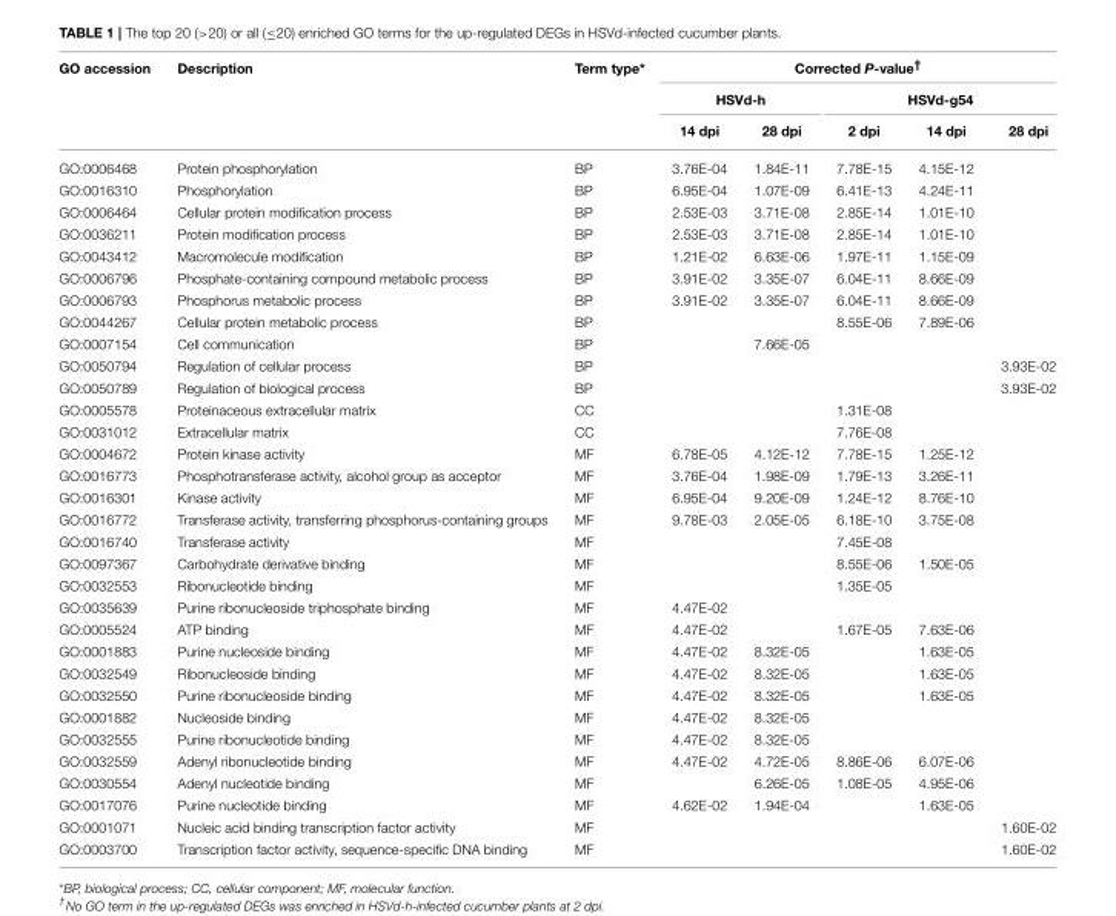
<table><thead><tr><td rowspan="3">GO accession</td><td rowspan="3">Description</td><td rowspan="3">Term type*</td><td colspan="5">Corrected P-value<sup>†</sup></td></tr><tr><td colspan="2">HSVd-h</td><td colspan="3">HSVd-g54</td></tr><tr><td>14 dpi</td><td>28 dpi</td><td>2 dpi</td><td>14 dpi</td><td>28 dpi</td></tr></thead><tbody><tr><td>GO:0006468</td><td>Protein phosphorylation</td><td>BP</td><td>3.76E-04</td><td>1.84E-11</td><td>7.78E-15</td><td>4.15E-12</td><td></td></tr><tr><td>GO:0016310</td><td>Phosphorylation</td><td>BP</td><td>6.95E-04</td><td>1.07E-09</td><td>6.41E-13</td><td>4.24E-11</td><td></td></tr><tr><td>GO:0006464</td><td>Cellular protein modification process</td><td>BP</td><td>2.53E-03</td><td>3.71E-08</td><td>2.85E-14</td><td>1.01E-10</td><td></td></tr><tr><td>GO:0036211</td><td>Protein modification process</td><td>BP</td><td>2.53E-03</td><td>3.71E-08</td><td>2.85E-14</td><td>1.01E-10</td><td></td></tr><tr><td>GO:0043412</td><td>Macromolecule modification</td><td>BP</td><td>1.21E-02</td><td>6.63E-06</td><td>1.97E-11</td><td>1.15E-09</td><td></td></tr><tr><td>GO:0006796</td><td>Phosphate-containing compound metabolic process</td><td>BP</td><td>3.91E-02</td><td>3.35E-07</td><td>6.04E-11</td><td>8.66E-09</td><td></td></tr><tr><td>GO:0006793</td><td>Phosphorus metabolic process</td><td>BP</td><td>3.91E-02</td><td>3.35E-07</td><td>6.04E-11</td><td>8.66E-09</td><td></td></tr><tr><td>GO:0044267</td><td>Cellular protein metabolic process</td><td>BP</td><td></td><td></td><td>8.55E-06</td><td>7.89E-06</td><td></td></tr><tr><td>GO:0007154</td><td>Cell communication</td><td>BP</td><td></td><td>7.66E-05</td><td></td><td></td><td></td></tr><tr><td>GO:0050794</td><td>Regulation of cellular process</td><td>BP</td><td></td><td></td><td></td><td></td><td>3.93E-02</td></tr><tr><td>GO:0050789</td><td>Regulation of biological process</td><td>BP</td><td></td><td></td><td></td><td></td><td>3.93E-02</td></tr><tr><td>GO:0005578</td><td>Proteinaceous extracellular matrix</td><td>CC</td><td></td><td></td><td>1.31E-08</td><td></td><td></td></tr><tr><td>GO:0031012</td><td>Extracellular matrix</td><td>CC</td><td></td><td></td><td>7.76E-08</td><td></td><td></td></tr><tr><td>GO:0004672</td><td>Protein kinase activity</td><td>MF</td><td>6.78E-05</td><td>4.12E-12</td><td>7.78E-15</td><td>1.25E-12</td><td></td></tr><tr><td>GO:0016773</td><td>Phosphotransferase activity, alcohol group as acceptor</td><td>MF</td><td>3.76E-04</td><td>1.98E-09</td><td>1.79E-13</td><td>3.26E-11</td><td></td></tr><tr><td>GO:0016301</td><td>Kinase activity</td><td>MF</td><td>6.95E-04</td><td>9.20E-09</td><td>1.24E-12</td><td>8.76E-10</td><td></td></tr><tr><td>GO:0016772</td><td>Transferase activity, transferring phosphorus-containing groups</td><td>MF</td><td>9.78E-03</td><td>2.05E-05</td><td>6.18E-10</td><td>3.75E-08</td><td></td></tr><tr><td>GO:0016740</td><td>Transferase activity</td><td>MF</td><td></td><td></td><td>7.45E-08</td><td></td><td></td></tr><tr><td>GO:0097367</td><td>Carbohydrate derivative binding</td><td>MF</td><td></td><td></td><td>8.55E-06</td><td>1.50E-05</td><td></td></tr><tr><td>GO:0032553</td><td>Ribonucleotide binding</td><td>MF</td><td></td><td></td><td>1.35E-05</td><td></td><td></td></tr><tr><td>GO:0035639</td><td>Purine ribonucleoside triphosphate binding</td><td>MF</td><td>4.47E-02</td><td></td><td></td><td></td><td></td></tr><tr><td>GO:0005524</td><td>ATP binding</td><td>MF</td><td>4.47E-02</td><td></td><td>1.67E-05</td><td>7.63E-06</td><td></td></tr><tr><td>GO:0001883</td><td>Purine nucleoside binding</td><td>MF</td><td>4.47E-02</td><td>8.32E-05</td><td></td><td>1.63E-05</td><td></td></tr><tr><td>GO:0032549</td><td>Ribonucleoside binding</td><td>MF</td><td>4.47E-02</td><td>8.32E-05</td><td></td><td>1.63E-05</td><td></td></tr><tr><td>GO:0032550</td><td>Purine ribonucleoside binding</td><td>MF</td><td>4.47E-02</td><td>8.32E-05</td><td></td><td>1.63E-05</td><td></td></tr><tr><td>GO:0001882</td><td>Nucleoside binding</td><td>MF</td><td>4.47E-02</td><td>8.32E-05</td><td></td><td></td><td></td></tr><tr><td>GO:0032555</td><td>Purine ribonucleotide binding</td><td>MF</td><td>4.47E-02</td><td>8.32E-05</td><td></td><td></td><td></td></tr><tr><td>GO:0032559</td><td>Adenyl ribonucleotide binding</td><td>MF</td><td>4.47E-02</td><td>4.72E-05</td><td>8.86E-06</td><td>6.07E-06</td><td></td></tr><tr><td>GO:0030554</td><td>Adenyl nucleotide binding</td><td>MF</td><td></td><td>6.26E-05</td><td>1.08E-05</td><td>4.95E-06</td><td></td></tr><tr><td>GO:0017076</td><td>Purine nucleotide binding</td><td>MF</td><td>4.62E-02</td><td>1.94E-04</td><td></td><td>1.63E-05</td><td></td></tr><tr><td>GO:0001071</td><td>Nucleic acid binding transcription factor activity</td><td>MF</td><td></td><td></td><td></td><td></td><td>1.60E-02</td></tr><tr><td>GO:0003700</td><td>Transcription factor activity, sequence-specific DNA binding</td><td>MF</td><td></td><td></td><td></td><td></td><td>1.60E-02</td></tr></tbody></table>